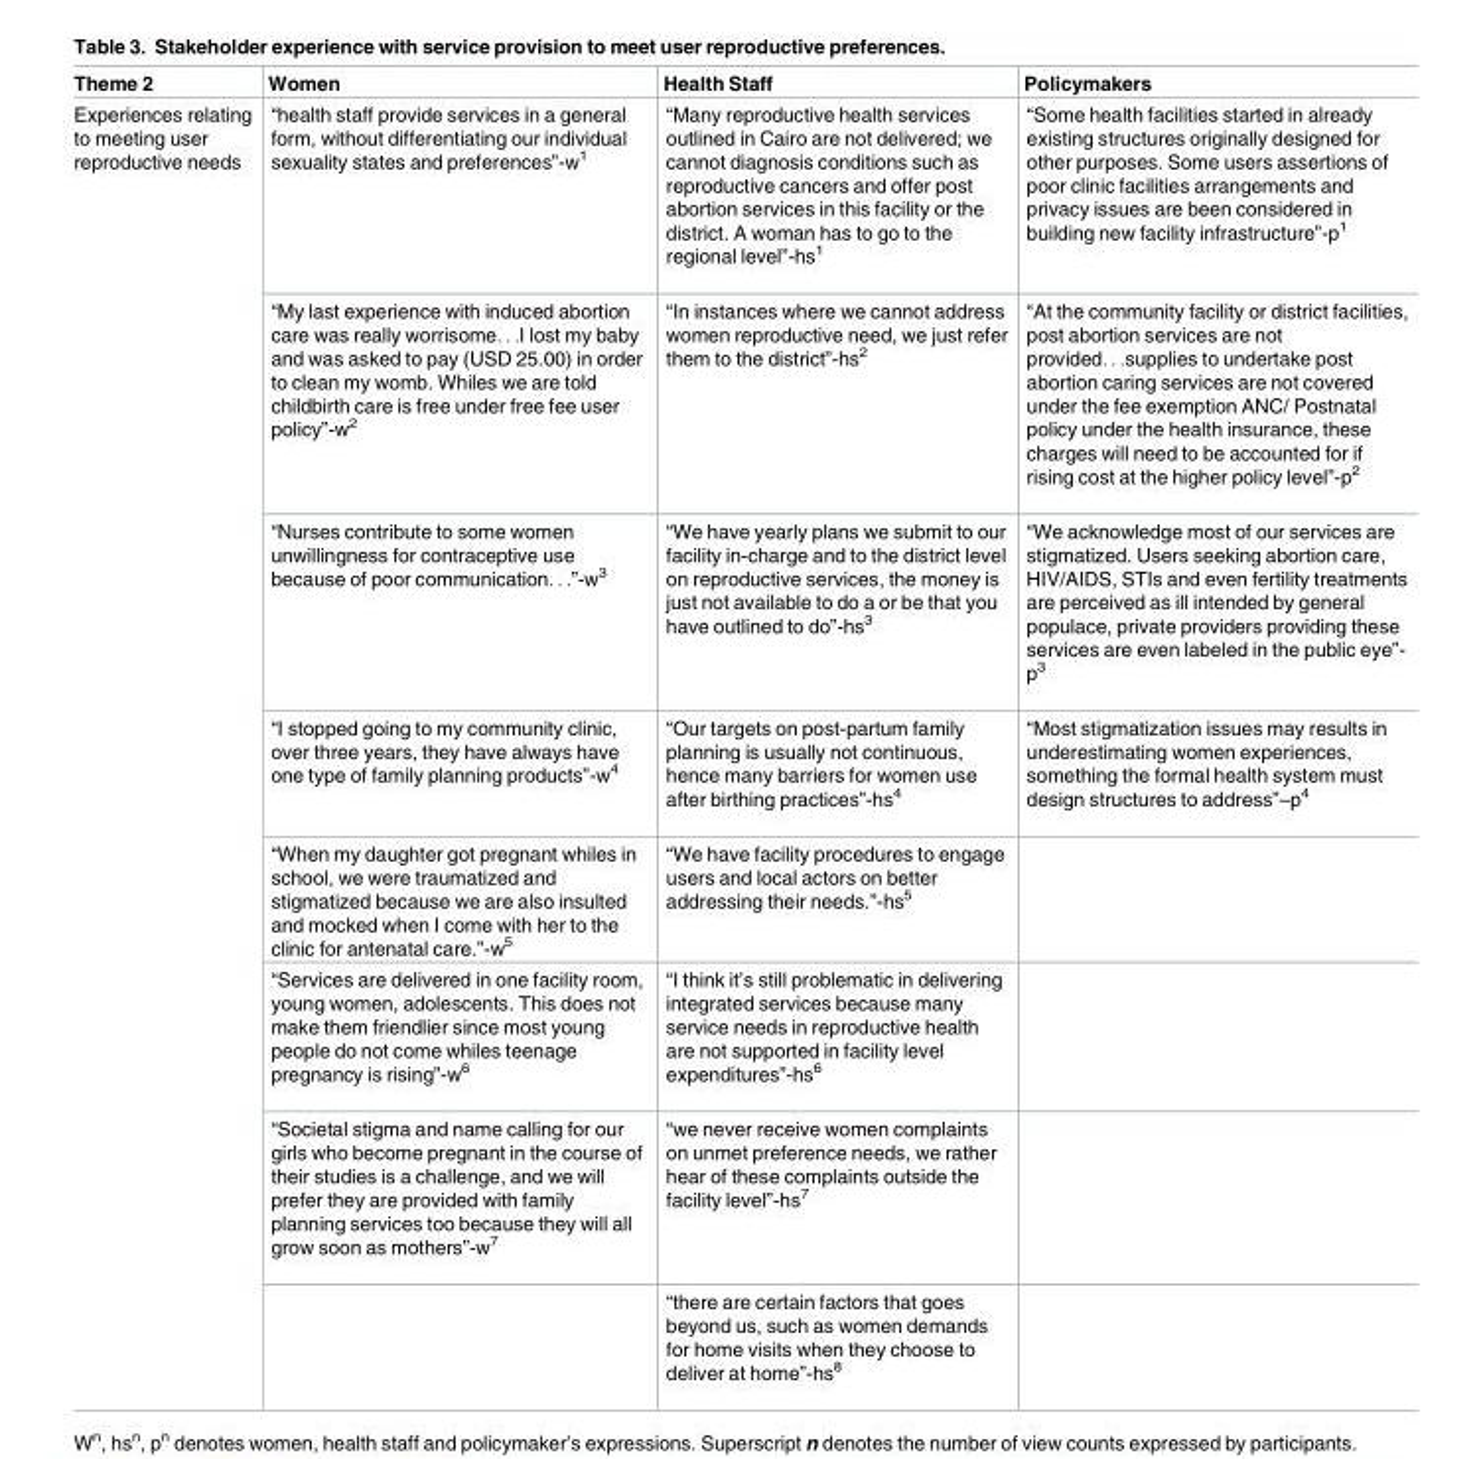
<table><thead><tr><td>Theme 2</td><td>Women</td><td>Health Staff</td><td>Policymakers</td></tr></thead><tbody><tr><td rowspan="8">Experiences relating to meeting user reproductive needs</td><td>“health staff provide services in a general form, without differentiating our individual sexuality states and preferences”-w<sup>1</sup></td><td>“Many reproductive health services outlined in Cairo are not delivered; we cannot diagnosis conditions such as reproductive cancers and offer post abortion services in this facility or the district. A woman has to go to the regional level”-hs<sup>1</sup></td><td>“Some health facilities started in already existing structures originally designed for other purposes. Some users assertions of poor clinic facilities arrangements and privacy issues are been considered in building new facility infrastructure”-p<sup>1</sup></td></tr><tr><td>“My last experience with induced abortion care was really worrisome. . .I lost my baby and was asked to pay (USD 25.00) in order to clean my womb. Whiles we are told childbirth care is free under free fee user policy”-w<sup>2</sup></td><td>“In instances where we cannot address women reproductive need, we just refer them to the district”-hs<sup>2</sup></td><td>“At the community facility or district facilities, post abortion services are not provided. . .supplies to undertake post abortion caring services are not covered under the fee exemption ANC/ Postnatal policy under the health insurance, these charges will need to be accounted for if rising cost at the higher policy level”-p<sup>2</sup></td></tr><tr><td>“Nurses contribute to some women unwillingness for contraceptive use because of poor communication. . .”-w<sup>3</sup></td><td>“We have yearly plans we submit to our facility in-charge and to the district level on reproductive services, the money is just not available to do a or be that you have outlined to do”-hs<sup>3</sup></td><td>“We acknowledge most of our services are stigmatized. Users seeking abortion care, HIV/AIDS, STIs and even fertility treatments are perceived as ill intended by general populace, private providers providing these services are even labeled in the public eye”- p<sup>3</sup></td></tr><tr><td>“I stopped going to my community clinic, over three years, they have always have one type of family planning products”-w<sup>4</sup></td><td>“Our targets on post-partum family planning is usually not continuous, hence many barriers for women use after birthing practices”-hs<sup>4</sup></td><td>“Most stigmatization issues may results in underestimating women experiences, something the formal health system must design structures to address”–p<sup>4</sup></td></tr><tr><td>“When my daughter got pregnant whiles in school, we were traumatized and stigmatized because we are also insulted and mocked when I come with her to the clinic for antenatal care.”-w<sup>5</sup></td><td>“We have facility procedures to engage users and local actors on better addressing their needs.”-hs<sup>5</sup></td><td></td></tr><tr><td>“Services are delivered in one facility room, young women, adolescents. This does not make them friendlier since most young people do not come whiles teenage pregnancy is rising”-w<sup>6</sup></td><td>“I think it’s still problematic in delivering integrated services because many service needs in reproductive health are not supported in facility level expenditures”-hs<sup>6</sup></td><td></td></tr><tr><td>“Societal stigma and name calling for our girls who become pregnant in the course of their studies is a challenge, and we will prefer they are provided with family planning services too because they will all grow soon as mothers”-w<sup>7</sup></td><td>“we never receive women complaints on unmet preference needs, we rather hear of these complaints outside the facility level”-hs<sup>7</sup></td><td></td></tr><tr><td></td><td>“there are certain factors that goes beyond us, such as women demands for home visits when they choose to deliver at home”-hs<sup>8</sup></td><td></td></tr></tbody></table>